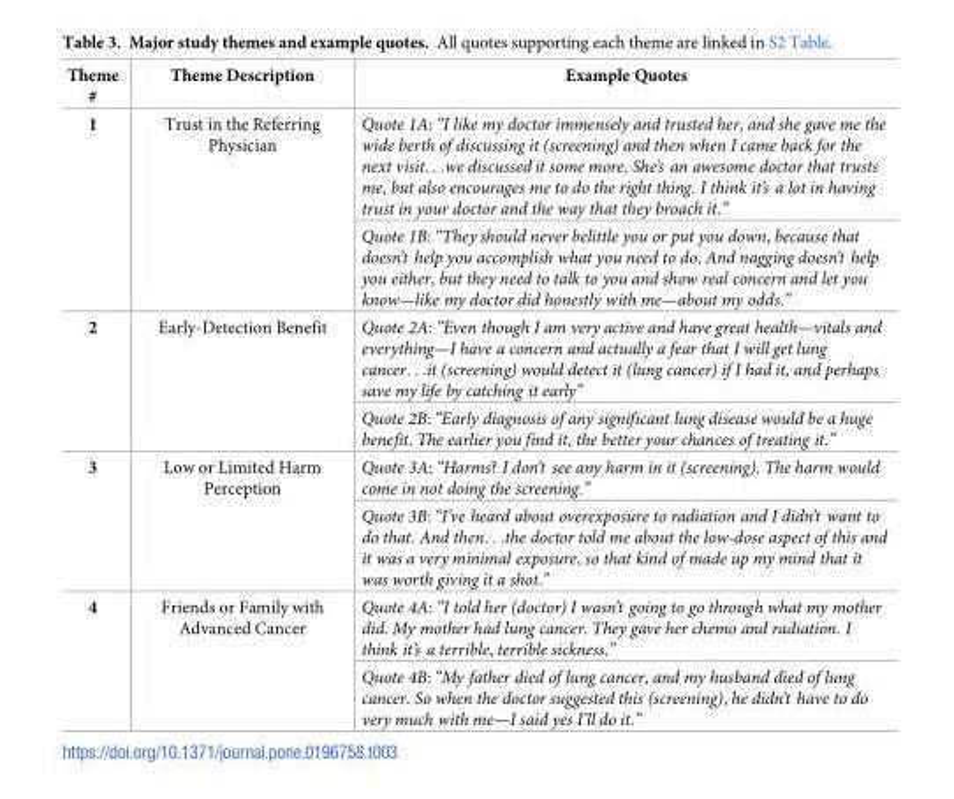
<table><thead><tr><td>Theme #</td><td>Theme Description</td><td>Example Quotes</td></tr></thead><tbody><tr><td rowspan="2">1</td><td rowspan="2">Trust in the Referring Physician</td><td>Quote 1A: “I like my doctor immensely and trusted her, and she gave me the wide berth of discussing it (screening) and then when I came back for the next visit.. .we discussed it some more. She’s an awesome doctor that trusts me, but also encourages me to do the right thing. I think it’s a lot in having trust in your doctor and the way that they broach it.”</td></tr><tr><td>Quote 1B: “They should never belittle you or put you down, because that doesn’t help you accomplish what you need to do. And nagging doesn’t help you either, but they need to talk to you and show real concern and let you know—like my doctor did honestly with me—about my odds.”</td></tr><tr><td rowspan="2">2</td><td rowspan="2">Early-Detection Benefit</td><td>Quote 2A: “Even though I am very active and have great health—vitals and everything—I have a concern and actually a fear that I will get lung cancer. . .it (screening) would detect it (lung cancer) if I had it, and perhaps save my life by catching it early”</td></tr><tr><td>Quote 2B: “Early diagnosis of any significant lung disease would be a huge benefit. The earlier you find it, the better your chances of treating it.”</td></tr><tr><td rowspan="2">3</td><td rowspan="2">Low or Limited Harm Perception</td><td>Quote 3A: “Harms? I don’t see any harm in it (screening). The harm would come in not doing the screening.”</td></tr><tr><td>Quote 3B: “I’ve heard about overexposure to radiation and I didn’t want to do that. And then. . .the doctor told me about the low-dose aspect of this and it was a very minimal exposure, so that kind of made up my mind that it was worth giving it a shot.”</td></tr><tr><td rowspan="2">4</td><td rowspan="2">Friends or Family with Advanced Cancer</td><td>Quote 4A: “I told her (doctor) I wasn’t going to go through what my mother did. My mother had lung cancer. They gave her chemo and radiation. I think it’s a terrible, terrible sickness.”</td></tr><tr><td>Quote 4B: “My father died of lung cancer, and my husband died of lung cancer. So when the doctor suggested this (screening), he didn’t have to do very much with me—I said yes I’ll do it.”</td></tr></tbody></table>